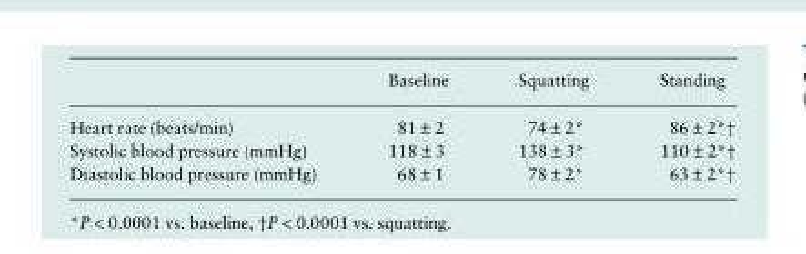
<table><thead><tr><td></td><td>Baseline</td><td>Squatting</td><td>Standing</td></tr></thead><tbody><tr><td>Heart rate (beats/min)</td><td>81 ± 2</td><td>74 ± 2*</td><td>86 ± 2*†</td></tr><tr><td>Systolic blood pressure (mmHg)</td><td>118 ± 3</td><td>138 ± 3*</td><td>110 ± 2*†</td></tr><tr><td>Diastolic blood pressure (mmHg)</td><td>68 ± 1</td><td>78 ± 2*</td><td>63 ± 2*†</td></tr></tbody></table>